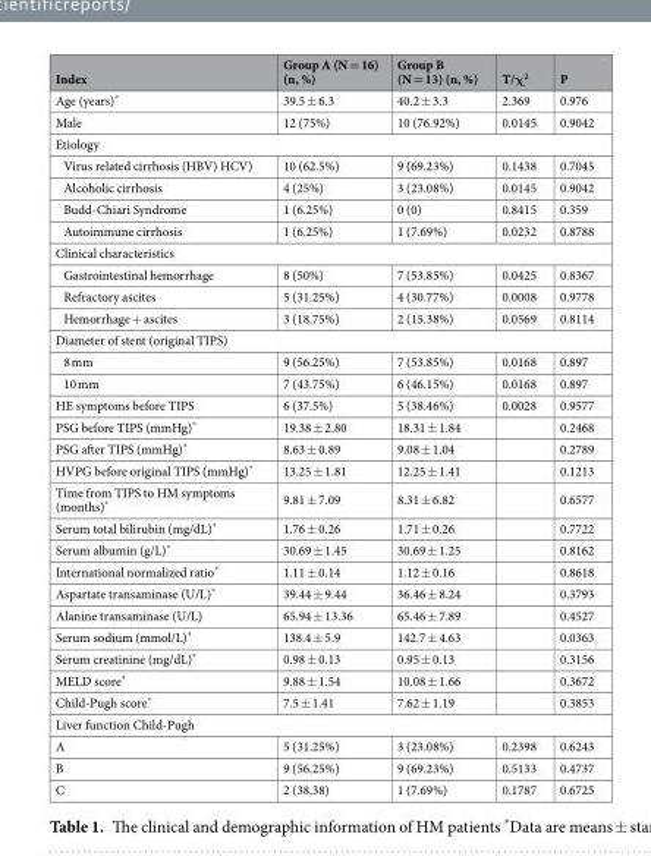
<table><thead><tr><td>Index</td><td>Group A (N = 16) (n, %)</td><td>Group B (N = 13) (n, %)</td><td>T/χ<sup>2</sup></td><td>P</td></tr></thead><tbody><tr><td>Age (years)*</td><td>39.5 ± 6.3</td><td>40.2 ± 3.3</td><td>2.369</td><td>0.976</td></tr><tr><td>Male</td><td>12 (75%)</td><td>10 (76.92%)</td><td>0.0145</td><td>0.9042</td></tr><tr><td colspan="5">Etiology</td></tr><tr><td>Virus related cirrhosis (HBV) HCV)</td><td>10 (62.5%)</td><td>9 (69.23%)</td><td>0.1438</td><td>0.7045</td></tr><tr><td>Alcoholic cirrhosis</td><td>4 (25%)</td><td>3 (23.08%)</td><td>0.0145</td><td>0.9042</td></tr><tr><td>Budd-Chiari Syndrome</td><td>1 (6.25%)</td><td>0 (0)</td><td>0.8415</td><td>0.359</td></tr><tr><td>Autoimmune cirrhosis</td><td>1 (6.25%)</td><td>1 (7.69%)</td><td>0.0232</td><td>0.8788</td></tr><tr><td colspan="5">Clinical characteristics</td></tr><tr><td>Gastrointestinal hemorrhage</td><td>8 (50%)</td><td>7 (53.85%)</td><td>0.0425</td><td>0.8367</td></tr><tr><td>Refractory ascites</td><td>5 (31.25%)</td><td>4 (30.77%)</td><td>0.0008</td><td>0.9778</td></tr><tr><td>Hemorrhage + ascites</td><td>3 (18.75%)</td><td>2 (15.38%)</td><td>0.0569</td><td>0.8114</td></tr><tr><td colspan="5">Diameter of stent (original TIPS)</td></tr><tr><td>8 mm</td><td>9 (56.25%)</td><td>7 (53.85%)</td><td>0.0168</td><td>0.897</td></tr><tr><td>10 mm</td><td>7 (43.75%)</td><td>6 (46.15%)</td><td>0.0168</td><td>0.897</td></tr><tr><td>HE symptoms before TIPS</td><td>6 (37.5%)</td><td>5 (38.46%)</td><td>0.0028</td><td>0.9577</td></tr><tr><td>PSG before TIPS (mmHg)*</td><td>19.38 ± 2.80</td><td>18.31 ± 1.84</td><td></td><td>0.2468</td></tr><tr><td>PSG after TIPS (mmHg)*</td><td>8.63 ± 0.89</td><td>9.08 ± 1.04</td><td></td><td>0.2789</td></tr><tr><td>HVPG before original TIPS (mmHg)*</td><td>13.25 ± 1.81</td><td>12.25 ± 1.41</td><td></td><td>0.1213</td></tr><tr><td>Time from TIPS to HM symptoms (months)*</td><td>9.81 ± 7.09</td><td>8.31 ± 6.82</td><td></td><td>0.6577</td></tr><tr><td>Serum total bilirubin (mg/dL)*</td><td>1.76 ± 0.26</td><td>1.71 ± 0.26</td><td></td><td>0.7722</td></tr><tr><td>Serum albumin (g/L)*</td><td>30.69 ± 1.45</td><td>30.69 ± 1.25</td><td></td><td>0.8162</td></tr><tr><td>International normalized ratio*</td><td>1.11 ± 0.14</td><td>1.12 ± 0.16</td><td></td><td>0.8618</td></tr><tr><td>Aspartate transaminase (U/L)*</td><td>39.44 ± 9.44</td><td>36.46 ± 8.24</td><td></td><td>0.3793</td></tr><tr><td>Alanine transaminase (U/L)</td><td>65.94 ± 13.36</td><td>65.46 ± 7.89</td><td></td><td>0.4527</td></tr><tr><td>Serum sodium (mmol/L)*</td><td>138.4 ± 5.9</td><td>142.7 ± 4.63</td><td></td><td>0.0363</td></tr><tr><td>Serum creatinine (mg/dL)*</td><td>0.98 ± 0.13</td><td>0.95 ± 0.13</td><td></td><td>0.3156</td></tr><tr><td>MELD score*</td><td>9.88 ± 1.54</td><td>10.08 ± 1.66</td><td></td><td>0.3672</td></tr><tr><td>Child-Pugh score*</td><td>7.5 ± 1.41</td><td>7.62 ± 1.19</td><td></td><td>0.3853</td></tr><tr><td colspan="5">Liver function Child-Pugh</td></tr><tr><td>A</td><td>5 (31.25%)</td><td>3 (23.08%)</td><td>0.2398</td><td>0.6243</td></tr><tr><td>B</td><td>9 (56.25%)</td><td>9 (69.23%)</td><td>0.5133</td><td>0.4737</td></tr><tr><td>C</td><td>2 (38.38)</td><td>1 (7.69%)</td><td>0.1787</td><td>0.6725</td></tr></tbody></table>